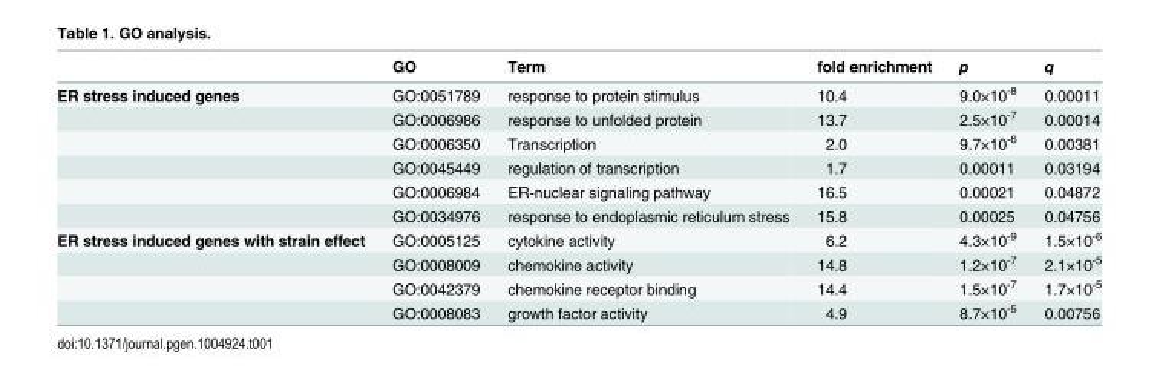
<table><thead><tr><td></td><td>GO</td><td>Term</td><td>fold enrichment</td><td>p</td><td>q</td></tr></thead><tbody><tr><td rowspan="6">ER stress induced genes</td><td>GO:0051789</td><td>response to protein stimulus</td><td>10.4</td><td>9.0×10<sup>-8</sup></td><td>0.00011</td></tr><tr><td>GO:0006986</td><td>response to unfolded protein</td><td>13.7</td><td>2.5×10<sup>-7</sup></td><td>0.00014</td></tr><tr><td>GO:0006350</td><td>Transcription</td><td>2.0</td><td>9.7×10<sup>-6</sup></td><td>0.00381</td></tr><tr><td>GO:0045449</td><td>regulation of transcription</td><td>1.7</td><td>0.00011</td><td>0.03194</td></tr><tr><td>GO:0006984</td><td>ER-nuclear signaling pathway</td><td>16.5</td><td>0.00021</td><td>0.04872</td></tr><tr><td>GO:0034976</td><td>response to endoplasmic reticulum stress</td><td>15.8</td><td>0.00025</td><td>0.04756</td></tr><tr><td rowspan="4">ER stress induced genes with strain effect</td><td>GO:0005125</td><td>cytokine activity</td><td>6.2</td><td>4.3×10<sup>-9</sup></td><td>1.5×10<sup>-6</sup></td></tr><tr><td>GO:0008009</td><td>chemokine activity</td><td>14.8</td><td>1.2×10<sup>-7</sup></td><td>2.1×10<sup>-5</sup></td></tr><tr><td>GO:0042379</td><td>chemokine receptor binding</td><td>14.4</td><td>1.5×10<sup>-7</sup></td><td>1.7×10<sup>-5</sup></td></tr><tr><td>GO:0008083</td><td>growth factor activity</td><td>4.9</td><td>8.7×10<sup>-5</sup></td><td>0.00756</td></tr></tbody></table>